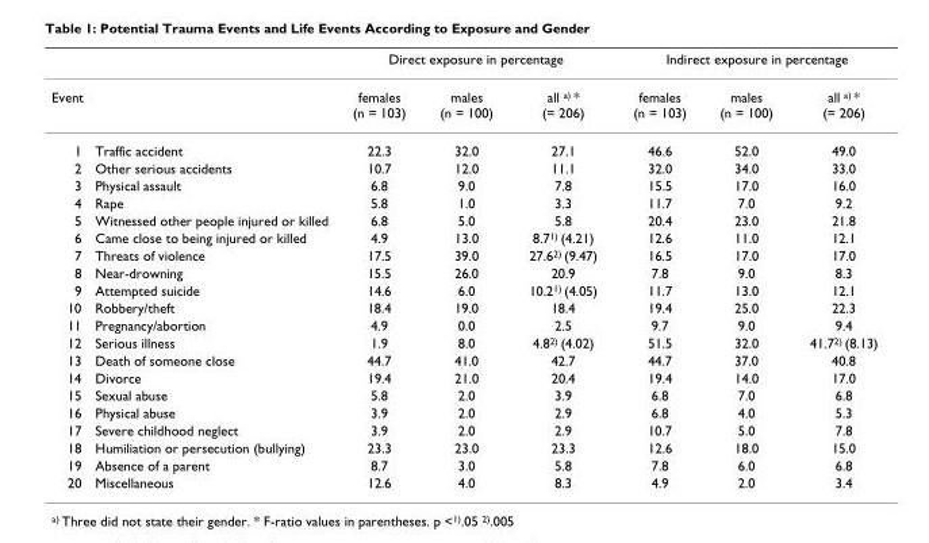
<table><thead><tr><td></td><td></td><td colspan="3">Direct exposure in percentage</td><td colspan="3">Indirect exposure in percentage</td></tr><tr><td colspan="2">Event</td><td>females (n = 103)</td><td>males (n = 100)</td><td>all <sup>a)</sup> * (= 206)</td><td>females (n = 103)</td><td>males (n = 100)</td><td>all <sup>a)</sup> * (= 206)</td></tr></thead><tbody><tr><td>1</td><td>Traffic accident</td><td>22.3</td><td>32.0</td><td>27.1</td><td>46.6</td><td>52.0</td><td>49.0</td></tr><tr><td>2</td><td>Other serious accidents</td><td>10.7</td><td>12.0</td><td>11.1</td><td>32.0</td><td>34.0</td><td>33.0</td></tr><tr><td>3</td><td>Physical assault</td><td>6.8</td><td>9.0</td><td>7.8</td><td>15.5</td><td>17.0</td><td>16.0</td></tr><tr><td>4</td><td>Rape</td><td>5.8</td><td>1.0</td><td>3.3</td><td>11.7</td><td>7.0</td><td>9.2</td></tr><tr><td>5</td><td>Witnessed other people injured or killed</td><td>6.8</td><td>5.0</td><td>5.8</td><td>20.4</td><td>23.0</td><td>21.8</td></tr><tr><td>6</td><td>Came close to being injured or killed</td><td>4.9</td><td>13.0</td><td>8.7<sup>1)</sup> (4.21)</td><td>12.6</td><td>11.0</td><td>12.1</td></tr><tr><td>7</td><td>Threats of violence</td><td>17.5</td><td>39.0</td><td>27.6<sup>2)</sup> (9.47)</td><td>16.5</td><td>17.0</td><td>17.0</td></tr><tr><td>8</td><td>Near-drowning</td><td>15.5</td><td>26.0</td><td>20.9</td><td>7.8</td><td>9.0</td><td>8.3</td></tr><tr><td>9</td><td>Attempted suicide</td><td>14.6</td><td>6.0</td><td>10.2<sup>1)</sup> (4.05)</td><td>11.7</td><td>13.0</td><td>12.1</td></tr><tr><td>10</td><td>Robbery/theft</td><td>18.4</td><td>19.0</td><td>18.4</td><td>19.4</td><td>25.0</td><td>22.3</td></tr><tr><td>11</td><td>Pregnancy/abortion</td><td>4.9</td><td>0.0</td><td>2.5</td><td>9.7</td><td>9.0</td><td>9.4</td></tr><tr><td>12</td><td>Serious illness</td><td>1.9</td><td>8.0</td><td>4.8<sup>2)</sup> (4.02)</td><td>51.5</td><td>32.0</td><td>41.7<sup>2)</sup> (8.13)</td></tr><tr><td>13</td><td>Death of someone close</td><td>44.7</td><td>41.0</td><td>42.7</td><td>44.7</td><td>37.0</td><td>40.8</td></tr><tr><td>14</td><td>Divorce</td><td>19.4</td><td>21.0</td><td>20.4</td><td>19.4</td><td>14.0</td><td>17.0</td></tr><tr><td>15</td><td>Sexual abuse</td><td>5.8</td><td>2.0</td><td>3.9</td><td>6.8</td><td>7.0</td><td>6.8</td></tr><tr><td>16</td><td>Physical abuse</td><td>3.9</td><td>2.0</td><td>2.9</td><td>6.8</td><td>4.0</td><td>5.3</td></tr><tr><td>17</td><td>Severe childhood neglect</td><td>3.9</td><td>2.0</td><td>2.9</td><td>10.7</td><td>5.0</td><td>7.8</td></tr><tr><td>18</td><td>Humiliation or persecution (bullying)</td><td>23.3</td><td>23.0</td><td>23.3</td><td>12.6</td><td>18.0</td><td>15.0</td></tr><tr><td>19</td><td>Absence of a parent</td><td>8.7</td><td>3.0</td><td>5.8</td><td>7.8</td><td>6.0</td><td>6.8</td></tr><tr><td>20</td><td>Miscellaneous</td><td>12.6</td><td>4.0</td><td>8.3</td><td>4.9</td><td>2.0</td><td>3.4</td></tr></tbody></table>